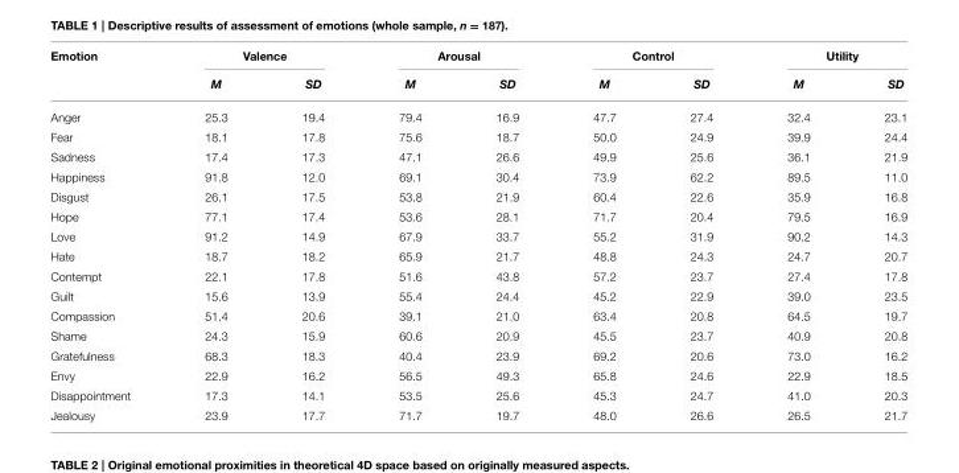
<table><thead><tr><td rowspan="2">Emotion</td><td colspan="2">Valence</td><td colspan="2">Arousal</td><td colspan="2">Control</td><td colspan="2">Utility</td></tr><tr><td>M</td><td>SD</td><td>M</td><td>SD</td><td>M</td><td>SD</td><td>M</td><td>SD</td></tr></thead><tbody><tr><td>Anger</td><td>25.3</td><td>19.4</td><td>79.4</td><td>16.9</td><td>47.7</td><td>27.4</td><td>32.4</td><td>23.1</td></tr><tr><td>Fear</td><td>18.1</td><td>17.8</td><td>75.6</td><td>18.7</td><td>50.0</td><td>24.9</td><td>39.9</td><td>24.4</td></tr><tr><td>Sadness</td><td>17.4</td><td>17.3</td><td>47.1</td><td>26.6</td><td>49.9</td><td>25.6</td><td>36.1</td><td>21.9</td></tr><tr><td>Happiness</td><td>91.8</td><td>12.0</td><td>69.1</td><td>30.4</td><td>73.9</td><td>62.2</td><td>89.5</td><td>11.0</td></tr><tr><td>Disgust</td><td>26.1</td><td>17.5</td><td>53.8</td><td>21.9</td><td>60.4</td><td>22.6</td><td>35.9</td><td>16.8</td></tr><tr><td>Hope</td><td>77.1</td><td>17.4</td><td>53.6</td><td>28.1</td><td>71.7</td><td>20.4</td><td>79.5</td><td>16.9</td></tr><tr><td>Love</td><td>91.2</td><td>14.9</td><td>67.9</td><td>33.7</td><td>55.2</td><td>31.9</td><td>90.2</td><td>14.3</td></tr><tr><td>Hate</td><td>18.7</td><td>18.2</td><td>65.9</td><td>21.7</td><td>48.8</td><td>24.3</td><td>24.7</td><td>20.7</td></tr><tr><td>Contempt</td><td>22.1</td><td>17.8</td><td>51.6</td><td>43.8</td><td>57.2</td><td>23.7</td><td>27.4</td><td>17.8</td></tr><tr><td>Guilt</td><td>15.6</td><td>13.9</td><td>55.4</td><td>24.4</td><td>45.2</td><td>22.9</td><td>39.0</td><td>23.5</td></tr><tr><td>Compassion</td><td>51.4</td><td>20.6</td><td>39.1</td><td>21.0</td><td>63.4</td><td>20.8</td><td>64.5</td><td>19.7</td></tr><tr><td>Shame</td><td>24.3</td><td>15.9</td><td>60.6</td><td>20.9</td><td>45.5</td><td>23.7</td><td>40.9</td><td>20.8</td></tr><tr><td>Gratefulness</td><td>68.3</td><td>18.3</td><td>40.4</td><td>23.9</td><td>69.2</td><td>20.6</td><td>73.0</td><td>16.2</td></tr><tr><td>Envy</td><td>22.9</td><td>16.2</td><td>56.5</td><td>49.3</td><td>65.8</td><td>24.6</td><td>22.9</td><td>18.5</td></tr><tr><td>Disappointment</td><td>17.3</td><td>14.1</td><td>53.5</td><td>25.6</td><td>45.3</td><td>24.7</td><td>41.0</td><td>20.3</td></tr><tr><td>Jealousy</td><td>23.9</td><td>17.7</td><td>71.7</td><td>19.7</td><td>48.0</td><td>26.6</td><td>26.5</td><td>21.7</td></tr></tbody></table>